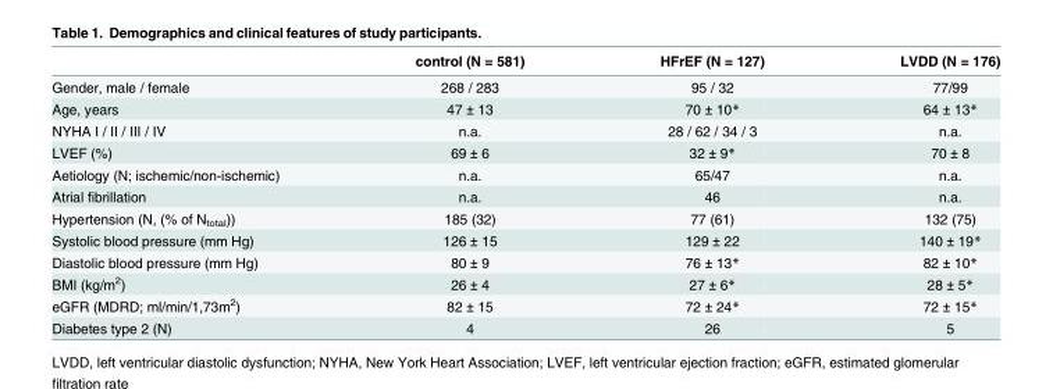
<table><thead><tr><td></td><td>control (N = 581)</td><td>HFrEF (N = 127)</td><td>LVDD (N = 176)</td></tr></thead><tbody><tr><td>Gender, male / female</td><td>268 / 283</td><td>95 / 32</td><td>77/99</td></tr><tr><td>Age, years</td><td>47 ± 13</td><td>70 ± 10*</td><td>64 ± 13*</td></tr><tr><td>NYHA I / II / III / IV</td><td>n.a.</td><td>28 / 62 / 34 / 3</td><td>n.a.</td></tr><tr><td>LVEF (%)</td><td>69 ± 6</td><td>32 ± 9*</td><td>70 ± 8</td></tr><tr><td>Aetiology (N; ischemic/non-ischemic)</td><td>n.a.</td><td>65/47</td><td>n.a.</td></tr><tr><td>Atrial fibrillation</td><td>n.a.</td><td>46</td><td>n.a.</td></tr><tr><td>Hypertension (N, (% of N<sub>total</sub>))</td><td>185 (32)</td><td>77 (61)</td><td>132 (75)</td></tr><tr><td>Systolic blood pressure (mm Hg)</td><td>126 ± 15</td><td>129 ± 22</td><td>140 ± 19*</td></tr><tr><td>Diastolic blood pressure (mm Hg)</td><td>80 ± 9</td><td>76 ± 13*</td><td>82 ± 10*</td></tr><tr><td>BMI (kg/m<sup>2</sup>)</td><td>26 ± 4</td><td>27 ± 6*</td><td>28 ± 5*</td></tr><tr><td>eGFR (MDRD; ml/min/1,73m<sup>2</sup>)</td><td>82 ± 15</td><td>72 ± 24*</td><td>72 ± 15*</td></tr><tr><td>Diabetes type 2 (N)</td><td>4</td><td>26</td><td>5</td></tr></tbody></table>